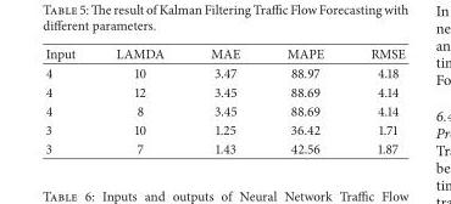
<table><thead><tr><td>Input</td><td>LAMDA</td><td>MAE</td><td>MAPE</td><td>RMSE</td></tr></thead><tbody><tr><td>4</td><td>10</td><td>3.47</td><td>88.97</td><td>4.18</td></tr><tr><td>4</td><td>12</td><td>3.45</td><td>88.69</td><td>4.14</td></tr><tr><td>4</td><td>8</td><td>3.45</td><td>88.69</td><td>4.14</td></tr><tr><td>3</td><td>10</td><td>1.25</td><td>36.42</td><td>1.71</td></tr><tr><td>3</td><td>7</td><td>1.43</td><td>42.56</td><td>1.87</td></tr></tbody></table>